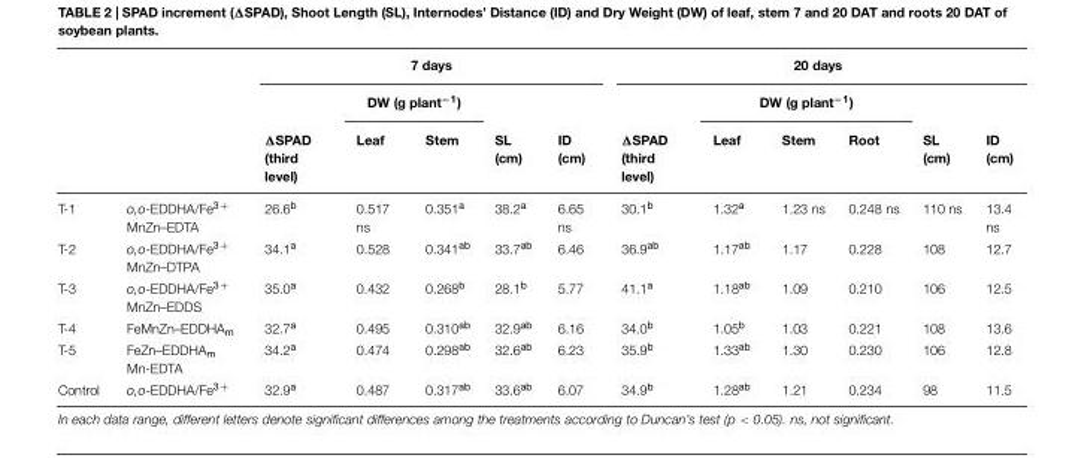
<table><thead><tr><td rowspan="3"></td><td rowspan="3"></td><td colspan="5">7 days</td><td colspan="6">20 days</td></tr><tr><td rowspan="2">ΔSPAD (third level)</td><td colspan="2">DW (g plant<sup>−1</sup>)</td><td rowspan="2">SL (cm)</td><td rowspan="2">ID (cm)</td><td rowspan="2">ΔSPAD (third level)</td><td colspan="3">DW (g plant<sup>−1</sup>)</td><td rowspan="2">SL (cm)</td><td rowspan="2">ID (cm)</td></tr><tr><td>Leaf</td><td>Stem</td><td>Leaf</td><td>Stem</td><td>Root</td></tr></thead><tbody><tr><td>T-1</td><td>o,o-EDDHA/Fe<sup>3+</sup> MnZn–EDTA</td><td>26.6<sup>b</sup></td><td>0.517 ns</td><td>0.351<sup>a</sup></td><td>38.2<sup>a</sup></td><td>6.65 ns</td><td>30.1<sup>b</sup></td><td>1.32<sup>a</sup></td><td>1.23 ns</td><td>0.248 ns</td><td>110 ns</td><td>13.4 ns</td></tr><tr><td>T-2</td><td>o,o-EDDHA/Fe<sup>3+</sup> MnZn–DTPA</td><td>34.1<sup>a</sup></td><td>0.528</td><td>0.341<sup>ab</sup></td><td>33.7<sup>ab</sup></td><td>6.46</td><td>36.9<sup>ab</sup></td><td>1.17<sup>ab</sup></td><td>1.17</td><td>0.228</td><td>108</td><td>12.7</td></tr><tr><td>T-3</td><td>o,o-EDDHA/Fe<sup>3+</sup> MnZn–EDDS</td><td>35.0<sup>a</sup></td><td>0.432</td><td>0.268<sup>b</sup></td><td>28.1<sup>b</sup></td><td>5.77</td><td>41.1<sup>a</sup></td><td>1.18<sup>ab</sup></td><td>1.09</td><td>0.210</td><td>106</td><td>12.5</td></tr><tr><td>T-4</td><td>FeMnZn–EDDHA<sub>m</sub></td><td>32.7<sup>a</sup></td><td>0.495</td><td>0.310<sup>ab</sup></td><td>32.9<sup>ab</sup></td><td>6.16</td><td>34.0<sup>b</sup></td><td>1.05<sup>b</sup></td><td>1.03</td><td>0.221</td><td>108</td><td>13.6</td></tr><tr><td>T-5</td><td>FeZn–EDDHA<sub>m</sub> Mn-EDTA</td><td>34.2<sup>a</sup></td><td>0.474</td><td>0.298<sup>ab</sup></td><td>32.6<sup>ab</sup></td><td>6.23</td><td>35.9<sup>b</sup></td><td>1.33<sup>ab</sup></td><td>1.30</td><td>0.230</td><td>106</td><td>12.8</td></tr><tr><td>Control</td><td>o,o-EDDHA/Fe<sup>3+</sup></td><td>32.9<sup>a</sup></td><td>0.487</td><td>0.317<sup>ab</sup></td><td>33.6<sup>ab</sup></td><td>6.07</td><td>34.9<sup>b</sup></td><td>1.28<sup>ab</sup></td><td>1.21</td><td>0.234</td><td>98</td><td>11.5</td></tr></tbody></table>